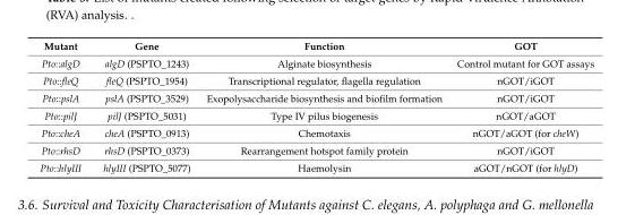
<table><thead><tr><td>Mutant</td><td>Gene</td><td>Function</td><td>GOT</td></tr></thead><tbody><tr><td>Pto::algD</td><td>algD (PSPTO_1243)</td><td>Alginate biosynthesis</td><td>Control mutant for GOT assays</td></tr><tr><td>Pto::fleQ</td><td>fleQ (PSPTO_1954)</td><td>Transcriptional regulator, flagella regulation</td><td>nGOT/iGOT</td></tr><tr><td>Pto::pslA</td><td>pslA (PSPTO_3529)</td><td>Exopolysaccharide biosynthesis and biofilm formation</td><td>nGOT/iGOT</td></tr><tr><td>Pto::pilJ</td><td>pilJ (PSPTO_5031)</td><td>Type IV pilus biogenesis</td><td>nGOT/aGOT</td></tr><tr><td>Pto::cheA</td><td>cheA (PSPTO_0913)</td><td>Chemotaxis</td><td>nGOT/aGOT (for cheW)</td></tr><tr><td>Pto::rhsD</td><td>rhsD (PSPTO_0373)</td><td>Rearrangement hotspot family protein</td><td>nGOT/iGOT</td></tr><tr><td>Pto::hlyIII</td><td>hlyIII (PSPTO_5077)</td><td>Haemolysin</td><td>aGOT/nGOT (for hlyD)</td></tr></tbody></table>